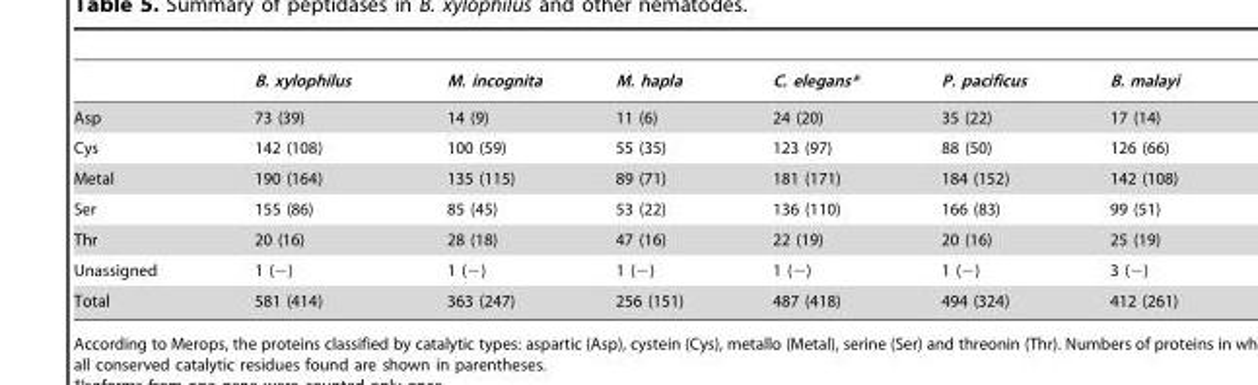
<table><thead><tr><td></td><td>B. xylophilus</td><td>M. incognita</td><td>M. hapla</td><td>C. elegans*</td><td>P. pacificus</td><td>B. malayi</td></tr></thead><tbody><tr><td>Asp</td><td>73 (39)</td><td>14 (9)</td><td>11 (6)</td><td>24 (20)</td><td>35 (22)</td><td>17 (14)</td></tr><tr><td>Cys</td><td>142 (108)</td><td>100 (59)</td><td>55 (35)</td><td>123 (97)</td><td>88 (50)</td><td>126 (66)</td></tr><tr><td>Metal</td><td>190 (164)</td><td>135 (115)</td><td>89 (71)</td><td>181 (171)</td><td>184 (152)</td><td>142 (108)</td></tr><tr><td>Ser</td><td>155 (86)</td><td>85 (45)</td><td>53 (22)</td><td>136 (110)</td><td>166 (83)</td><td>99 (51)</td></tr><tr><td>Thr</td><td>20 (16)</td><td>28 (18)</td><td>47 (16)</td><td>22 (19)</td><td>20 (16)</td><td>25 (19)</td></tr><tr><td>Unassigned</td><td>1 (−)</td><td>1 (−)</td><td>1 (−)</td><td>1 (−)</td><td>1 (−)</td><td>3 (−)</td></tr><tr><td>Total</td><td>581 (414)</td><td>363 (247)</td><td>256 (151)</td><td>487 (418)</td><td>494 (324)</td><td>412 (261)</td></tr></tbody></table>